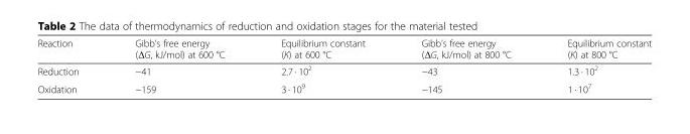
<table><thead><tr><td>Reaction</td><td>Gibb’s free energy (ΔG, kJ/mol) at 600 °C</td><td>Equilibrium constant (К) at 600 °C</td><td>Gibb’s free energy (ΔG, kJ/mol) at 800 °C</td><td>Equilibrium constant (К) at 800 °C</td></tr></thead><tbody><tr><td>Reduction</td><td>−41</td><td>2.7 · 10<sup>2</sup></td><td>−43</td><td>1.3 · 10<sup>2</sup></td></tr><tr><td>Oxidation</td><td>−159</td><td>3 · 10<sup>9</sup></td><td>−145</td><td>1 · 10<sup>7</sup></td></tr></tbody></table>